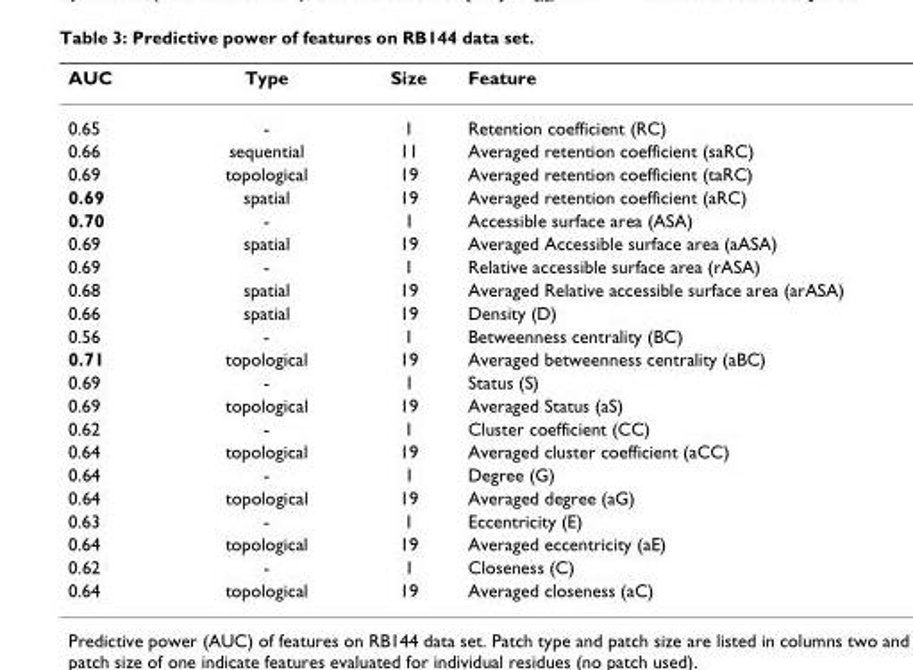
<table><thead><tr><td>AUC</td><td>Type</td><td>Size</td><td>Feature</td></tr></thead><tbody><tr><td>0.65</td><td>-</td><td>1</td><td>Retention coefficient (RC)</td></tr><tr><td>0.66</td><td>sequential</td><td>11</td><td>Averaged retention coefficient (saRC)</td></tr><tr><td>0.69</td><td>topological</td><td>19</td><td>Averaged retention coefficient (taRC)</td></tr><tr><td>0.69</td><td>spatial</td><td>19</td><td>Averaged retention coefficient (aRC)</td></tr><tr><td>0.70</td><td>-</td><td>1</td><td>Accessible surface area (ASA)</td></tr><tr><td>0.69</td><td>spatial</td><td>19</td><td>Averaged Accessible surface area (aASA)</td></tr><tr><td>0.69</td><td>-</td><td>1</td><td>Relative accessible surface area (rASA)</td></tr><tr><td>0.68</td><td>spatial</td><td>19</td><td>Averaged Relative accessible surface area (arASA)</td></tr><tr><td>0.66</td><td>spatial</td><td>19</td><td>Density (D)</td></tr><tr><td>0.56</td><td>-</td><td>1</td><td>Betweenness centrality (BC)</td></tr><tr><td>0.71</td><td>topological</td><td>19</td><td>Averaged betweenness centrality (aBC)</td></tr><tr><td>0.69</td><td>-</td><td>1</td><td>Status (S)</td></tr><tr><td>0.69</td><td>topological</td><td>19</td><td>Averaged Status (aS)</td></tr><tr><td>0.62</td><td>-</td><td>1</td><td>Cluster coefficient (CC)</td></tr><tr><td>0.64</td><td>topological</td><td>19</td><td>Averaged cluster coefficient (aCC)</td></tr><tr><td>0.64</td><td>-</td><td>1</td><td>Degree (G)</td></tr><tr><td>0.64</td><td>topological</td><td>19</td><td>Averaged degree (aG)</td></tr><tr><td>0.63</td><td>-</td><td>1</td><td>Eccentricity (E)</td></tr><tr><td>0.64</td><td>topological</td><td>19</td><td>Averaged eccentricity (aE)</td></tr><tr><td>0.62</td><td>-</td><td>1</td><td>Closeness (C)</td></tr><tr><td>0.64</td><td>topological</td><td>19</td><td>Averaged closeness (aC)</td></tr></tbody></table>